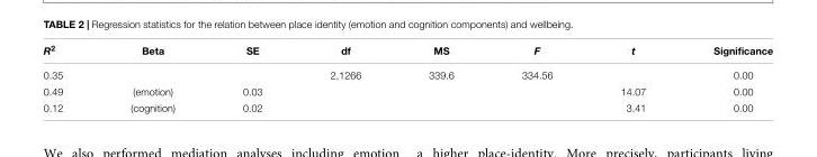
<table><thead><tr><td>R<sup>2</sup></td><td>Beta</td><td>SE</td><td>df</td><td>MS</td><td>F</td><td>t</td><td>Significance</td></tr></thead><tbody><tr><td>0.35</td><td></td><td></td><td>2,1266</td><td>339.6</td><td>334.56</td><td></td><td>0.00</td></tr><tr><td>0.49</td><td>(emotion)</td><td>0.03</td><td></td><td></td><td></td><td>14.07</td><td>0.00</td></tr><tr><td>0.12</td><td>(cognition)</td><td>0.02</td><td></td><td></td><td></td><td>3.41</td><td>0.00</td></tr></tbody></table>